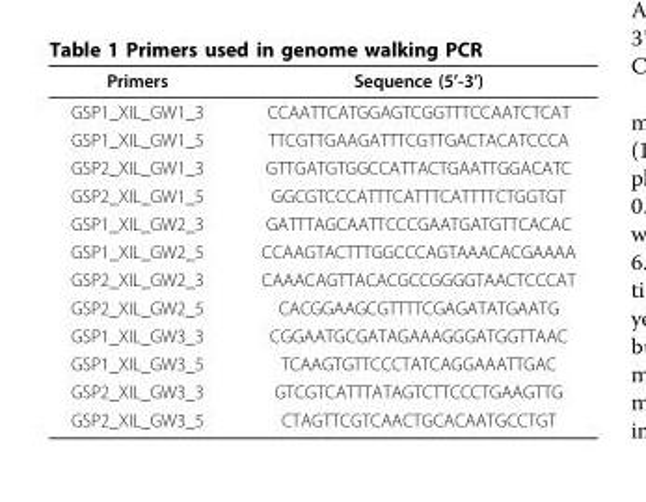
<table><thead><tr><td>Primers</td><td>Sequence (5’-3’)</td></tr></thead><tbody><tr><td>GSP1_XIL_GW1_3</td><td>CCAATTCATGGAGTCGGTTTCCAATCTCAT</td></tr><tr><td>GSP1_XIL_GW1_5</td><td>TTCGTTGAAGATTTCGTTGACTACATCCCA</td></tr><tr><td>GSP2_XIL_GW1_3</td><td>GTTGATGTGGCCATTACTGAATTGGACATC</td></tr><tr><td>GSP2_XIL_GW1_5</td><td>GGCGTCCCATTTCATTTCATTTTCTGGTGT</td></tr><tr><td>GSP1_XIL_GW2_3</td><td>GATTTAGCAATTCCCGAATGATGTTCACAC</td></tr><tr><td>GSP1_XIL_GW2_5</td><td>CCAAGTACTTTGGCCCAGTAAACACGAAAA</td></tr><tr><td>GSP2_XIL_GW2_3</td><td>CAAACAGTTACACGCCGGGGTAACTCCCAT</td></tr><tr><td>GSP2_XIL_GW2_5</td><td>CACGGAAGCGTTTTCGAGATATGAATG</td></tr><tr><td>GSP1_XIL_GW3_3</td><td>CGGAATGCGATAGAAAGGGATGGTTAAC</td></tr><tr><td>GSP1_XIL_GW3_5</td><td>TCAAGTGTTCCCTATCAGGAAATTGAC</td></tr><tr><td>GSP2_XIL_GW3_3</td><td>GTCGTCATTTATAGTCTTCCCTGAAGTTG</td></tr><tr><td>GSP2_XIL_GW3_5</td><td>CTAGTTCGTCAACTGCACAATGCCTGT</td></tr></tbody></table>